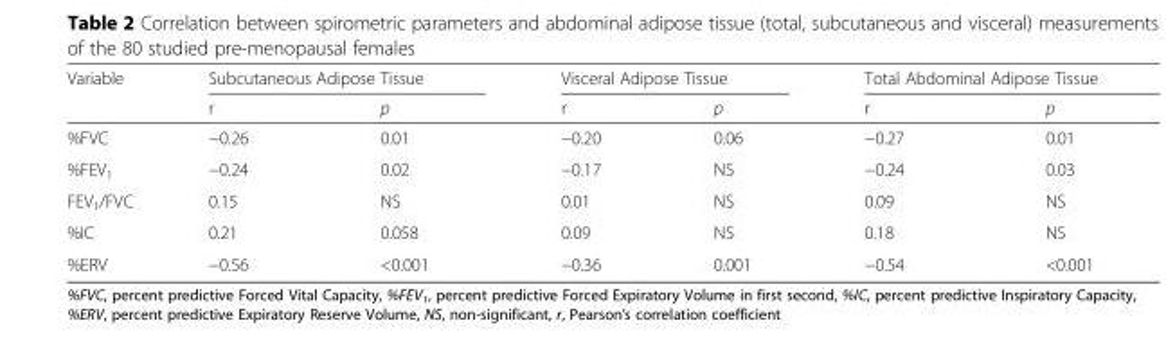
<table><thead><tr><td rowspan="2">Variable</td><td colspan="2">Subcutaneous Adipose Tissue</td><td colspan="2">Visceral Adipose Tissue</td><td colspan="2">Total Abdominal Adipose Tissue</td></tr><tr><td>r</td><td>p</td><td>r</td><td>p</td><td>r</td><td>p</td></tr></thead><tbody><tr><td>%FVC</td><td>−0.26</td><td>0.01</td><td>−0.20</td><td>0.06</td><td>−0.27</td><td>0.01</td></tr><tr><td>%FEV<sub>1</sub></td><td>−0.24</td><td>0.02</td><td>−0.17</td><td>NS</td><td>−0.24</td><td>0.03</td></tr><tr><td>FEV<sub>1</sub>/FVC</td><td>0.15</td><td>NS</td><td>0.01</td><td>NS</td><td>0.09</td><td>NS</td></tr><tr><td>%IC</td><td>0.21</td><td>0.058</td><td>0.09</td><td>NS</td><td>0.18</td><td>NS</td></tr><tr><td>%ERV</td><td>−0.56</td><td>&lt;0.001</td><td>−0.36</td><td>0.001</td><td>−0.54</td><td>&lt;0.001</td></tr></tbody></table>